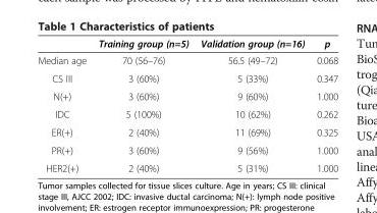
<table><thead><tr><td></td><td>Training group (n=5)</td><td>Validation group (n=16)</td><td>p</td></tr></thead><tbody><tr><td>Median age</td><td>70 (56–76)</td><td>56.5 (49–72)</td><td>0.068</td></tr><tr><td>CS III</td><td>3 (60%)</td><td>5 (33%)</td><td>0.347</td></tr><tr><td>N(+)</td><td>3 (60%)</td><td>9 (60%)</td><td>1.000</td></tr><tr><td>IDC</td><td>5 (100%)</td><td>10 (62%)</td><td>0.262</td></tr><tr><td>ER(+)</td><td>2 (40%)</td><td>11 (69%)</td><td>0.325</td></tr><tr><td>PR(+)</td><td>3 (60%)</td><td>9 (56%)</td><td>1.000</td></tr><tr><td>HER2(+)</td><td>2 (40%)</td><td>5 (31%)</td><td>1.000</td></tr></tbody></table>